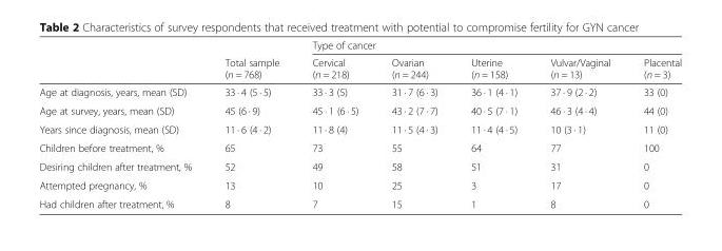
<table><thead><tr><td rowspan="2"></td><td rowspan="2">Total sample (n = 768)</td><td colspan="5">Type of cancer</td></tr><tr><td>Cervical (n = 218)</td><td>Ovarian (n = 244)</td><td>Uterine (n = 158)</td><td>Vulvar/Vaginal (n = 13)</td><td>Placental (n = 3)</td></tr></thead><tbody><tr><td>Age at diagnosis, years, mean (SD)</td><td>33 · 4 (5 · 5)</td><td>33 · 3 (5)</td><td>31 · 7 (6 · 3)</td><td>36 · 1 (4 · 1)</td><td>37 · 9 (2 · 2)</td><td>33 (0)</td></tr><tr><td>Age at survey, years, mean (SD)</td><td>45 (6 · 9)</td><td>45 · 1 (6 · 5)</td><td>43 · 2 (7 · 7)</td><td>40 · 5 (7 · 1)</td><td>46 · 3 (4 · 4)</td><td>44 (0)</td></tr><tr><td>Years since diagnosis, mean (SD)</td><td>11 · 6 (4 · 2)</td><td>11 · 8 (4)</td><td>11 · 5 (4 · 3)</td><td>11 · 4 (4 · 5)</td><td>10 (3 · 1)</td><td>11 (0)</td></tr><tr><td>Children before treatment, %</td><td>65</td><td>73</td><td>55</td><td>64</td><td>77</td><td>100</td></tr><tr><td>Desiring children after treatment, %</td><td>52</td><td>49</td><td>58</td><td>51</td><td>31</td><td>0</td></tr><tr><td>Attempted pregnancy, %</td><td>13</td><td>10</td><td>25</td><td>3</td><td>17</td><td>0</td></tr><tr><td>Had children after treatment, %</td><td>8</td><td>7</td><td>15</td><td>1</td><td>8</td><td>0</td></tr></tbody></table>